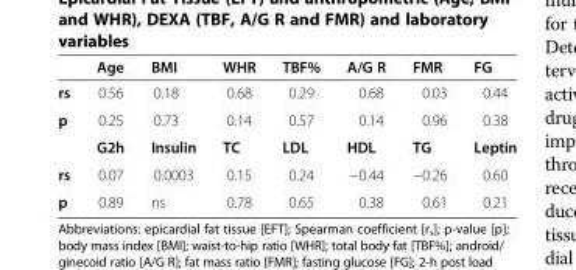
<table><thead><tr><td></td><td>Age</td><td>BMI</td><td>WHR</td><td>TBF%</td><td>A/G R</td><td>FMR</td><td>FG</td></tr></thead><tbody><tr><td>rs</td><td>0.56</td><td>0.18</td><td>0.68</td><td>0.29</td><td>0.68</td><td>0.03</td><td>0.44</td></tr><tr><td rowspan="2">p</td><td>0.25</td><td>0.73</td><td>0.14</td><td>0.57</td><td>0.14</td><td>0.96</td><td>0.38</td></tr><tr><td>G2h</td><td>Insulin</td><td>TC</td><td>LDL</td><td>HDL</td><td>TG</td><td>Leptin</td></tr><tr><td>rs</td><td>0.07</td><td>0.0003</td><td>0.15</td><td>0.24</td><td>−0.44</td><td>−0.26</td><td>0.60</td></tr><tr><td>p</td><td>0.89</td><td>ns</td><td>0.78</td><td>0.65</td><td>0.38</td><td>0.61</td><td>0.21</td></tr></tbody></table>